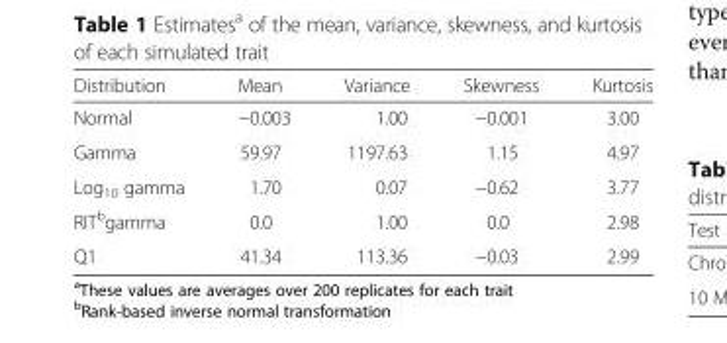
<table><thead><tr><td>Distribution</td><td>Mean</td><td>Variance</td><td>Skewness</td><td>Kurtosis</td></tr></thead><tbody><tr><td>Normal</td><td>−0.003</td><td>1.00</td><td>−0.001</td><td>3.00</td></tr><tr><td>Gamma</td><td>59.97</td><td>1197.63</td><td>1.15</td><td>4.97</td></tr><tr><td>Log<sub>10</sub> gamma</td><td>1.70</td><td>0.07</td><td>−0.62</td><td>3.77</td></tr><tr><td>RIT<sup>b</sup>gamma</td><td>0.0</td><td>1.00</td><td>0.0</td><td>2.98</td></tr><tr><td>Q1</td><td>41.34</td><td>113.36</td><td>−0.03</td><td>2.99</td></tr></tbody></table>